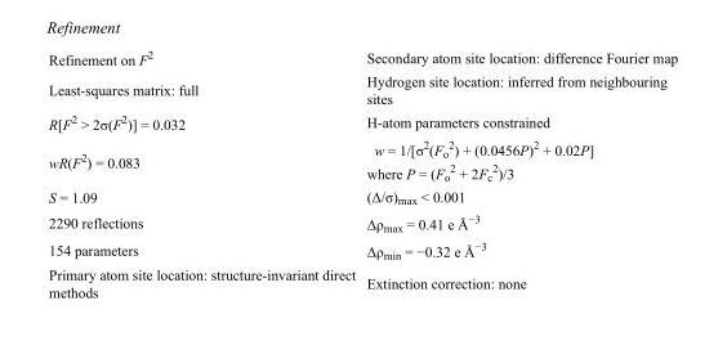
<table><tbody><tr><td>Refinement on F<sup>2</sup></td><td>Secondary atom site location: difference Fourier map</td></tr><tr><td>Least-squares matrix: full</td><td>Hydrogen site location: inferred from neighbouring sites</td></tr><tr><td>R[F<sup>2</sup> &gt; 2σ(F<sup>2</sup>)] = 0.032</td><td>H-atom parameters constrained</td></tr><tr><td>wR(F<sup>2</sup>) = 0.083</td><td>w = 1/[σ<sup>2</sup>(F<sub>o</sub> <sup>2</sup>) + (0.0456P)<sup>2</sup> + 0.02P] where P = (F<sub>o</sub> <sup>2</sup> + 2F<sub>c</sub> <sup>2</sup>)/3</td></tr><tr><td>S = 1.09</td><td>(Δ/σ)<sub>max</sub> &lt; 0.001</td></tr><tr><td>2290 reflections</td><td>Δρ<sub>max</sub> = 0.41 e Å<sup>−3</sup></td></tr><tr><td>154 parameters</td><td>Δρ<sub>min</sub> = −0.32 e Å<sup>−3</sup></td></tr><tr><td>Primary atom site location: structure-invariant direct methods</td><td>Extinction correction: none</td></tr></tbody></table>